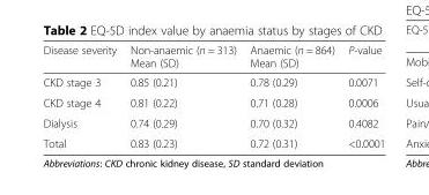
<table><thead><tr><td>Disease severity</td><td>Non-anaemic (n = 313) Mean (SD)</td><td>Anaemic (n = 864) Mean (SD)</td><td>P-value</td></tr></thead><tbody><tr><td>CKD stage 3</td><td>0.85 (0.21)</td><td>0.78 (0.29)</td><td>0.0071</td></tr><tr><td>CKD stage 4</td><td>0.81 (0.22)</td><td>0.71 (0.28)</td><td>0.0006</td></tr><tr><td>Dialysis</td><td>0.74 (0.29)</td><td>0.70 (0.32)</td><td>0.4082</td></tr><tr><td>Total</td><td>0.83 (0.23)</td><td>0.72 (0.31)</td><td>&lt;0.0001</td></tr></tbody></table>